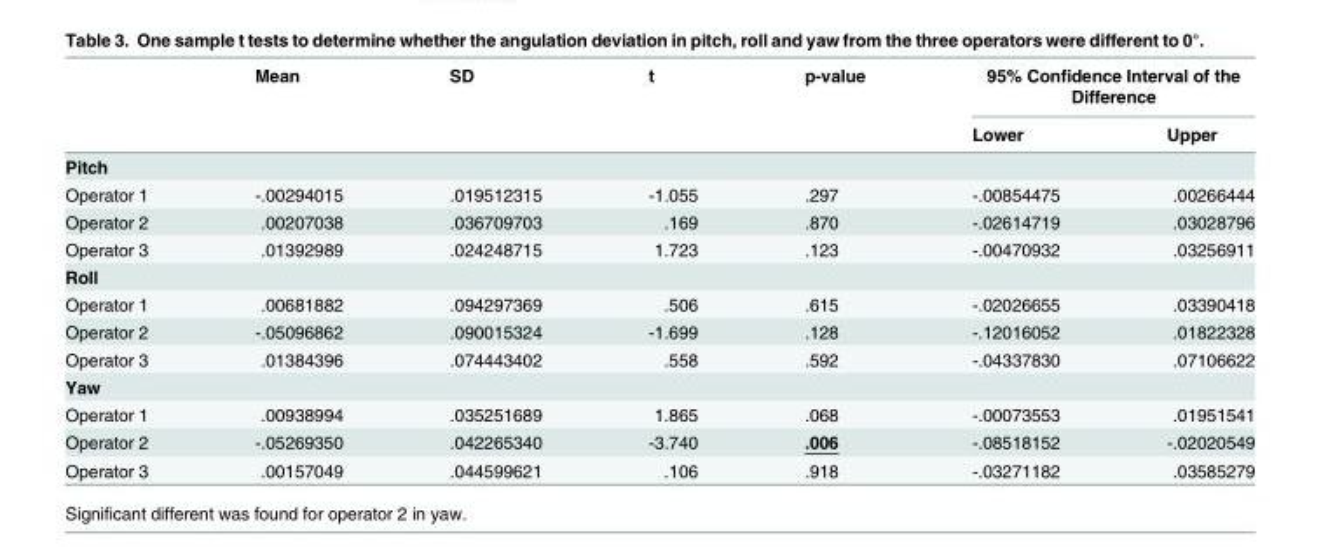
<table><thead><tr><td rowspan="2"></td><td rowspan="2">Mean</td><td rowspan="2">SD</td><td rowspan="2">t</td><td rowspan="2">p-value</td><td colspan="2">95% Confidence Interval of the Difference</td></tr><tr><td>Lower</td><td>Upper</td></tr></thead><tbody><tr><td colspan="7">Pitch</td></tr><tr><td>Operator 1</td><td>-.00294015</td><td>.019512315</td><td>-1.055</td><td>.297</td><td>-.00854475</td><td>.00266444</td></tr><tr><td>Operator 2</td><td>.00207038</td><td>.036709703</td><td>.169</td><td>.870</td><td>-.02614719</td><td>.03028796</td></tr><tr><td>Operator 3</td><td>.01392989</td><td>.024248715</td><td>1.723</td><td>.123</td><td>-.00470932</td><td>.03256911</td></tr><tr><td colspan="7">Roll</td></tr><tr><td>Operator 1</td><td>.00681882</td><td>.094297369</td><td>.506</td><td>.615</td><td>-.02026655</td><td>.03390418</td></tr><tr><td>Operator 2</td><td>-.05096862</td><td>.090015324</td><td>-1.699</td><td>.128</td><td>-.12016052</td><td>.01822328</td></tr><tr><td>Operator 3</td><td>.01384396</td><td>.074443402</td><td>.558</td><td>.592</td><td>-.04337830</td><td>.07106622</td></tr><tr><td colspan="7">Yaw</td></tr><tr><td>Operator 1</td><td>.00938994</td><td>.035251689</td><td>1.865</td><td>.068</td><td>-.00073553</td><td>.01951541</td></tr><tr><td>Operator 2</td><td>-.05269350</td><td>.042265340</td><td>-3.740</td><td>.006</td><td>-.08518152</td><td>-.02020549</td></tr><tr><td>Operator 3</td><td>.00157049</td><td>.044599621</td><td>.106</td><td>.918</td><td>-.03271182</td><td>.03585279</td></tr></tbody></table>